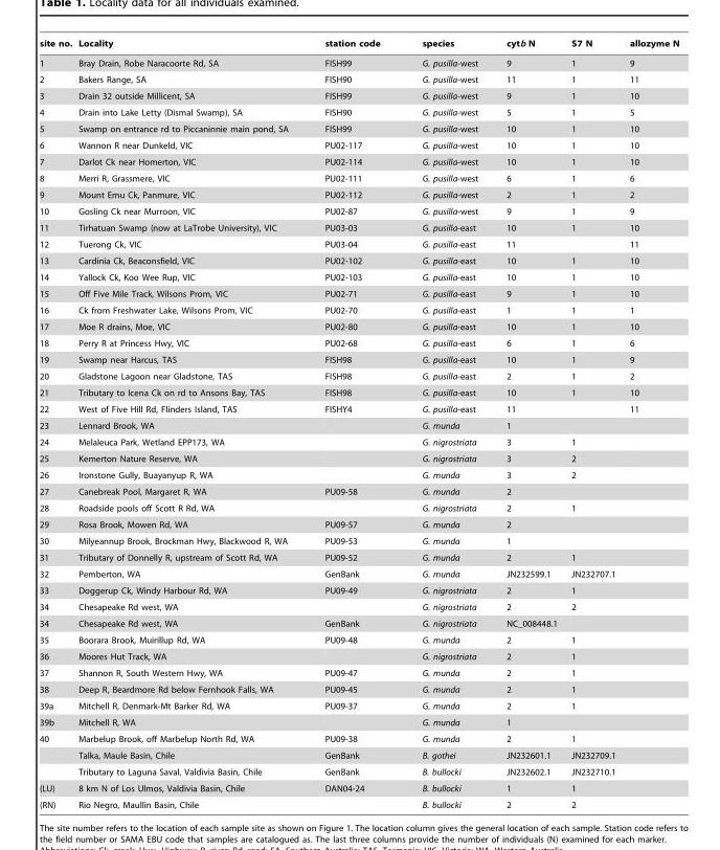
<table><thead><tr><td>site no.</td><td>Locality</td><td>station code</td><td>species</td><td>cytb N</td><td>S7 N</td><td>allozyme N</td></tr></thead><tbody><tr><td>1</td><td>Bray Drain, Robe Naracoorte Rd, SA</td><td>FISH99</td><td>G. pusilla-west</td><td>9</td><td>1</td><td>9</td></tr><tr><td>2</td><td>Bakers Range, SA</td><td>FISH90</td><td>G. pusilla-west</td><td>11</td><td>1</td><td>11</td></tr><tr><td>3</td><td>Drain 32 outside Millicent, SA</td><td>FISH99</td><td>G. pusilla-west</td><td>9</td><td>1</td><td>10</td></tr><tr><td>4</td><td>Drain into Lake Letty (Dismal Swamp), SA</td><td>FISH90</td><td>G. pusilla-west</td><td>5</td><td>1</td><td>5</td></tr><tr><td>5</td><td>Swamp on entrance rd to Piccaninnie main pond, SA</td><td>FISH99</td><td>G. pusilla-west</td><td>10</td><td>1</td><td>10</td></tr><tr><td>6</td><td>Wannon R near Dunkeld, VIC</td><td>PU02-117</td><td>G. pusilla-west</td><td>10</td><td>1</td><td>10</td></tr><tr><td>7</td><td>Darlot Ck near Homerton, VIC</td><td>PU02-114</td><td>G. pusilla-west</td><td>10</td><td>1</td><td>10</td></tr><tr><td>8</td><td>Merri R, Grassmere, VIC</td><td>PU02-111</td><td>G. pusilla-west</td><td>6</td><td>1</td><td>6</td></tr><tr><td>9</td><td>Mount Emu Ck, Panmure, VIC</td><td>PU02-112</td><td>G. pusilla-west</td><td>2</td><td>1</td><td>2</td></tr><tr><td>10</td><td>Gosling Ck near Murroon, VIC</td><td>PU02-87</td><td>G. pusilla-west</td><td>9</td><td>1</td><td>9</td></tr><tr><td>11</td><td>Tirhatuan Swamp (now at LaTrobe University), VIC</td><td>PU03-03</td><td>G. pusilla-east</td><td>10</td><td>1</td><td>10</td></tr><tr><td>12</td><td>Tuerong Ck, VIC</td><td>PU03-04</td><td>G. pusilla-east</td><td>11</td><td></td><td>11</td></tr><tr><td>13</td><td>Cardinia Ck, Beaconsfield, VIC</td><td>PU02-102</td><td>G. pusilla-east</td><td>10</td><td>1</td><td>10</td></tr><tr><td>14</td><td>Yallock Ck, Koo Wee Rup, VIC</td><td>PU02-103</td><td>G. pusilla-east</td><td>10</td><td>1</td><td>10</td></tr><tr><td>15</td><td>Off Five Mile Track, Wilsons Prom, VIC</td><td>PU02-71</td><td>G. pusilla-east</td><td>9</td><td>1</td><td>10</td></tr><tr><td>16</td><td>Ck from Freshwater Lake, Wilsons Prom, VIC</td><td>PU02-70</td><td>G. pusilla-east</td><td>1</td><td>1</td><td>1</td></tr><tr><td>17</td><td>Moe R drains, Moe, VIC</td><td>PU02-80</td><td>G. pusilla-east</td><td>10</td><td>1</td><td>10</td></tr><tr><td>18</td><td>Perry R at Princess Hwy, VIC</td><td>PU02-68</td><td>G. pusilla-east</td><td>6</td><td>1</td><td>6</td></tr><tr><td>19</td><td>Swamp near Harcus, TAS</td><td>FISH98</td><td>G. pusilla-east</td><td>10</td><td>1</td><td>9</td></tr><tr><td>20</td><td>Gladstone Lagoon near Gladstone, TAS</td><td>FISH98</td><td>G. pusilla-east</td><td>2</td><td>1</td><td>2</td></tr><tr><td>21</td><td>Tributary to Icena Ck on rd to Ansons Bay, TAS</td><td>FISH98</td><td>G. pusilla-east</td><td>10</td><td>1</td><td>10</td></tr><tr><td>22</td><td>West of Five Hill Rd, Flinders Island, TAS</td><td>FISHY4</td><td>G. pusilla-east</td><td>11</td><td></td><td>11</td></tr><tr><td>23</td><td>Lennard Brook, WA</td><td></td><td>G. munda</td><td>1</td><td></td><td></td></tr><tr><td>24</td><td>Melaleuca Park, Wetland EPP173, WA</td><td></td><td>G. nigrostriata</td><td>3</td><td>1</td><td></td></tr><tr><td>25</td><td>Kemerton Nature Reserve, WA</td><td></td><td>G. nigrostriata</td><td>3</td><td>2</td><td></td></tr><tr><td>26</td><td>Ironstone Gully, Buayanyup R, WA</td><td></td><td>G. munda</td><td>3</td><td>2</td><td></td></tr><tr><td>27</td><td>Canebreak Pool, Margaret R, WA</td><td>PU09-58</td><td>G. munda</td><td>2</td><td></td><td></td></tr><tr><td>28</td><td>Roadside pools off Scott R Rd, WA</td><td></td><td>G. nigrostriata</td><td>2</td><td>1</td><td></td></tr><tr><td>29</td><td>Rosa Brook, Mowen Rd, WA</td><td>PU09-57</td><td>G. munda</td><td>2</td><td></td><td></td></tr><tr><td>30</td><td>Milyeannup Brook, Brockman Hwy, Blackwood R, WA</td><td>PU09-53</td><td>G. munda</td><td>1</td><td></td><td></td></tr><tr><td>31</td><td>Tributary of Donnelly R, upstream of Scott Rd, WA</td><td>PU09-52</td><td>G. munda</td><td>2</td><td>1</td><td></td></tr><tr><td>32</td><td>Pemberton, WA</td><td>GenBank</td><td>G. munda</td><td>JN232599.1</td><td>JN232707.1</td><td></td></tr><tr><td>33</td><td>Doggerup Ck, Windy Harbour Rd, WA</td><td>PU09-49</td><td>G. nigrostriata</td><td>2</td><td>1</td><td></td></tr><tr><td>34</td><td>Chesapeake Rd west, WA</td><td></td><td>G. nigrostriata</td><td>2</td><td>2</td><td></td></tr><tr><td>34</td><td>Chesapeake Rd west, WA</td><td>GenBank</td><td>G. nigrostriata</td><td>NC_008448.1</td><td></td><td></td></tr><tr><td>35</td><td>Boorara Brook, Muirillup Rd, WA</td><td>PU09-48</td><td>G. munda</td><td>2</td><td>1</td><td></td></tr><tr><td>36</td><td>Moores Hut Track, WA</td><td></td><td>G. nigrostriata</td><td>2</td><td>1</td><td></td></tr><tr><td>37</td><td>Shannon R, South Western Hwy, WA</td><td>PU09-47</td><td>G. munda</td><td>2</td><td>1</td><td></td></tr><tr><td>38</td><td>Deep R, Beardmore Rd below Fernhook Falls, WA</td><td>PU09-45</td><td>G. munda</td><td>2</td><td>1</td><td></td></tr><tr><td>39a</td><td>Mitchell R, Denmark-Mt Barker Rd, WA</td><td>PU09-37</td><td>G. munda</td><td>2</td><td>1</td><td></td></tr><tr><td>39b</td><td>Mitchell R, WA</td><td></td><td>G. munda</td><td>1</td><td></td><td></td></tr><tr><td rowspan="3">40</td><td>Marbelup Brook, off Marbelup North Rd, WA</td><td>PU09-38</td><td>G. munda</td><td>2</td><td>1</td><td></td></tr><tr><td>Talka, Maule Basin, Chile</td><td>GenBank</td><td>B. gothei</td><td>JN232601.1</td><td>JN232709.1</td><td></td></tr><tr><td>Tributary to Laguna Saval, Valdivia Basin, Chile</td><td>GenBank</td><td>B. bullocki</td><td>JN232602.1</td><td>JN232710.1</td><td></td></tr><tr><td>(LU)</td><td>8 km N of Los Ulmos, Valdivia Basin, Chile</td><td>DAN04-24</td><td>B. bullocki</td><td>1</td><td>1</td><td></td></tr><tr><td>(RN)</td><td>Rio Negro, Maullin Basin, Chile</td><td></td><td>B. bullocki</td><td>2</td><td>2</td><td></td></tr></tbody></table>